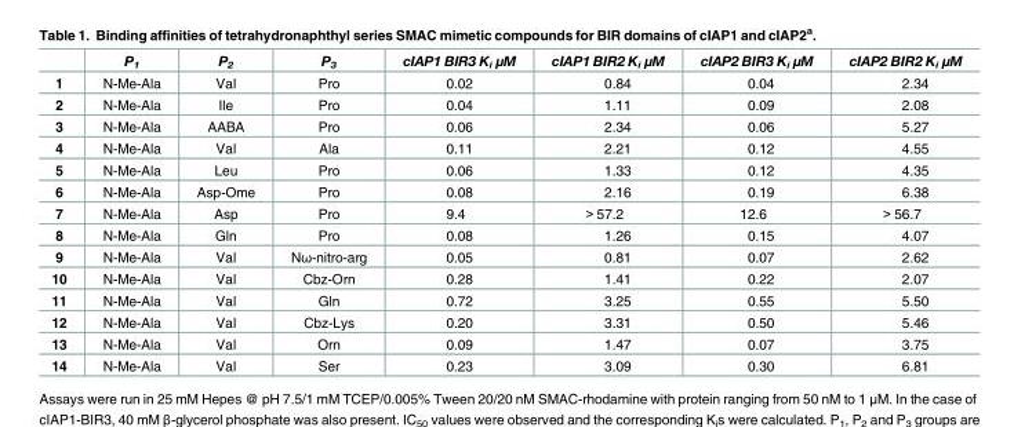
<table><thead><tr><td></td><td>P<sub>1</sub></td><td>P<sub>2</sub></td><td>P<sub>3</sub></td><td>cIAP1 BIR3 K<sub>i</sub> μM</td><td>cIAP1 BIR2 K<sub>i</sub> μM</td><td>cIAP2 BIR3 K<sub>i</sub> μM</td><td>cIAP2 BIR2 K<sub>i</sub> μM</td></tr></thead><tbody><tr><td>1</td><td>N-Me-Ala</td><td>Val</td><td>Pro</td><td>0.02</td><td>0.84</td><td>0.04</td><td>2.34</td></tr><tr><td>2</td><td>N-Me-Ala</td><td>Ile</td><td>Pro</td><td>0.04</td><td>1.11</td><td>0.09</td><td>2.08</td></tr><tr><td>3</td><td>N-Me-Ala</td><td>AABA</td><td>Pro</td><td>0.06</td><td>2.34</td><td>0.06</td><td>5.27</td></tr><tr><td>4</td><td>N-Me-Ala</td><td>Val</td><td>Ala</td><td>0.11</td><td>2.21</td><td>0.12</td><td>4.55</td></tr><tr><td>5</td><td>N-Me-Ala</td><td>Leu</td><td>Pro</td><td>0.06</td><td>1.33</td><td>0.12</td><td>4.35</td></tr><tr><td>6</td><td>N-Me-Ala</td><td>Asp-Ome</td><td>Pro</td><td>0.08</td><td>2.16</td><td>0.19</td><td>6.38</td></tr><tr><td>7</td><td>N-Me-Ala</td><td>Asp</td><td>Pro</td><td>9.4</td><td>&gt; 57.2</td><td>12.6</td><td>&gt; 56.7</td></tr><tr><td>8</td><td>N-Me-Ala</td><td>Gln</td><td>Pro</td><td>0.08</td><td>1.26</td><td>0.15</td><td>4.07</td></tr><tr><td>9</td><td>N-Me-Ala</td><td>Val</td><td>Nω-nitro-arg</td><td>0.05</td><td>0.81</td><td>0.07</td><td>2.62</td></tr><tr><td>10</td><td>N-Me-Ala</td><td>Val</td><td>Cbz-Orn</td><td>0.28</td><td>1.41</td><td>0.22</td><td>2.07</td></tr><tr><td>11</td><td>N-Me-Ala</td><td>Val</td><td>Gln</td><td>0.72</td><td>3.25</td><td>0.55</td><td>5.50</td></tr><tr><td>12</td><td>N-Me-Ala</td><td>Val</td><td>Cbz-Lys</td><td>0.20</td><td>3.31</td><td>0.50</td><td>5.46</td></tr><tr><td>13</td><td>N-Me-Ala</td><td>Val</td><td>Orn</td><td>0.09</td><td>1.47</td><td>0.07</td><td>3.75</td></tr><tr><td>14</td><td>N-Me-Ala</td><td>Val</td><td>Ser</td><td>0.23</td><td>3.09</td><td>0.30</td><td>6.81</td></tr></tbody></table>